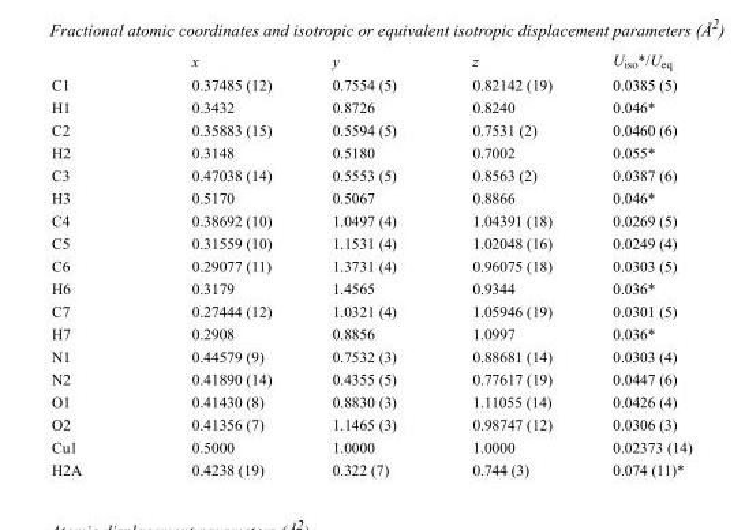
<table><thead><tr><td></td><td>x</td><td>y</td><td>z</td><td>U<sub>iso</sub>*/U<sub>eq</sub></td></tr></thead><tbody><tr><td>C1</td><td>0.37485 (12)</td><td>0.7554 (5)</td><td>0.82142 (19)</td><td>0.0385 (5)</td></tr><tr><td>H1</td><td>0.3432</td><td>0.8726</td><td>0.8240</td><td>0.046*</td></tr><tr><td>C2</td><td>0.35883 (15)</td><td>0.5594 (5)</td><td>0.7531 (2)</td><td>0.0460 (6)</td></tr><tr><td>H2</td><td>0.3148</td><td>0.5180</td><td>0.7002</td><td>0.055*</td></tr><tr><td>C3</td><td>0.47038 (14)</td><td>0.5553 (5)</td><td>0.8563 (2)</td><td>0.0387 (6)</td></tr><tr><td>H3</td><td>0.5170</td><td>0.5067</td><td>0.8866</td><td>0.046*</td></tr><tr><td>C4</td><td>0.38692 (10)</td><td>1.0497 (4)</td><td>1.04391 (18)</td><td>0.0269 (5)</td></tr><tr><td>C5</td><td>0.31559 (10)</td><td>1.1531 (4)</td><td>1.02048 (16)</td><td>0.0249 (4)</td></tr><tr><td>C6</td><td>0.29077 (11)</td><td>1.3731 (4)</td><td>0.96075 (18)</td><td>0.0303 (5)</td></tr><tr><td>H6</td><td>0.3179</td><td>1.4565</td><td>0.9344</td><td>0.036*</td></tr><tr><td>C7</td><td>0.27444 (12)</td><td>1.0321 (4)</td><td>1.05946 (19)</td><td>0.0301 (5)</td></tr><tr><td>H7</td><td>0.2908</td><td>0.8856</td><td>1.0997</td><td>0.036*</td></tr><tr><td>N1</td><td>0.44579 (9)</td><td>0.7532 (3)</td><td>0.88681 (14)</td><td>0.0303 (4)</td></tr><tr><td>N2</td><td>0.41890 (14)</td><td>0.4355 (5)</td><td>0.77617 (19)</td><td>0.0447 (6)</td></tr><tr><td>O1</td><td>0.41430 (8)</td><td>0.8830 (3)</td><td>1.11055 (14)</td><td>0.0426 (4)</td></tr><tr><td>O2</td><td>0.41356 (7)</td><td>1.1465 (3)</td><td>0.98747 (12)</td><td>0.0306 (3)</td></tr><tr><td>Cu1</td><td>0.5000</td><td>1.0000</td><td>1.0000</td><td>0.02373 (14)</td></tr><tr><td>H2A</td><td>0.4238 (19)</td><td>0.322 (7)</td><td>0.744 (3)</td><td>0.074 (11)*</td></tr></tbody></table>